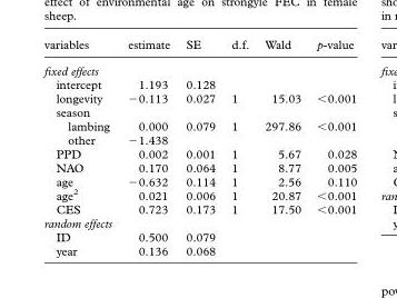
<table><thead><tr><td>variables</td><td>estimate</td><td>SE</td><td>d.f.</td><td>Wald</td><td>p-value</td></tr></thead><tbody><tr><td colspan="6">fixed effects</td></tr><tr><td>intercept</td><td>1.193</td><td>0.128</td><td></td><td></td><td></td></tr><tr><td>longevity</td><td>−0.113</td><td>0.027</td><td>1</td><td>15.03</td><td>&lt;0.001</td></tr><tr><td colspan="6">season</td></tr><tr><td>lambing</td><td>0.000</td><td>0.079</td><td>1</td><td>297.86</td><td>&lt;0.001</td></tr><tr><td>other</td><td>−1.438</td><td></td><td></td><td></td><td></td></tr><tr><td>PPD</td><td>0.002</td><td>0.001</td><td>1</td><td>5.67</td><td>0.028</td></tr><tr><td>NAO</td><td>0.170</td><td>0.064</td><td>1</td><td>8.77</td><td>0.005</td></tr><tr><td>age</td><td>−0.632</td><td>0.114</td><td>1</td><td>2.56</td><td>0.110</td></tr><tr><td>age<sup>2</sup></td><td>0.021</td><td>0.006</td><td>1</td><td>20.87</td><td>&lt;0.001</td></tr><tr><td>CES</td><td>0.723</td><td>0.173</td><td>1</td><td>17.50</td><td>&lt;0.001</td></tr><tr><td colspan="6">random effects</td></tr><tr><td>ID</td><td>0.500</td><td>0.079</td><td></td><td></td><td></td></tr><tr><td>year</td><td>0.136</td><td>0.068</td><td></td><td></td><td></td></tr></tbody></table>